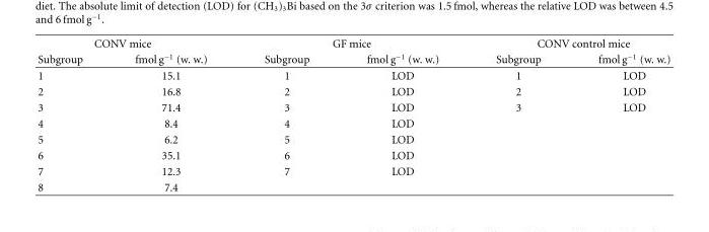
<table><thead><tr><td colspan="2">CONV mice</td><td colspan="2">GF mice</td><td colspan="2">CONV control mice</td></tr><tr><td>Subgroup</td><td>fmol g<sup>−1</sup> (w. w.)</td><td>Subgroup</td><td>fmol g<sup>−1</sup> (w. w.)</td><td>Subgroup</td><td>fmol g<sup>−1</sup> (w. w.)</td></tr></thead><tbody><tr><td>1</td><td>15.1</td><td>1</td><td>LOD</td><td>1</td><td>LOD</td></tr><tr><td>2</td><td>16.8</td><td>2</td><td>LOD</td><td>2</td><td>LOD</td></tr><tr><td>3</td><td>71.4</td><td>3</td><td>LOD</td><td>3</td><td>LOD</td></tr><tr><td>4</td><td>8.4</td><td>4</td><td>LOD</td><td></td><td></td></tr><tr><td>5</td><td>6.2</td><td>5</td><td>LOD</td><td></td><td></td></tr><tr><td>6</td><td>35.1</td><td>6</td><td>LOD</td><td></td><td></td></tr><tr><td>7</td><td>12.3</td><td>7</td><td>LOD</td><td></td><td></td></tr><tr><td>8</td><td>7.4</td><td></td><td></td><td></td><td></td></tr></tbody></table>